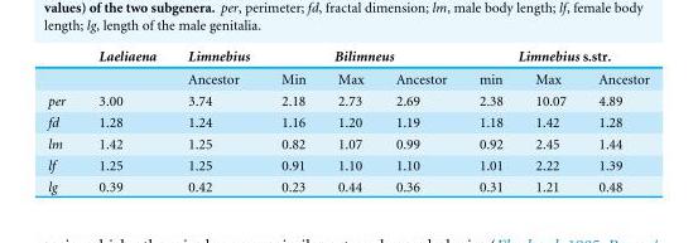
<table><thead><tr><td rowspan="2"></td><td rowspan="2">Laeliaena</td><td rowspan="2">Limnebius Ancestor</td><td colspan="3">Bilimneus</td><td colspan="3">Limnebius s.str.</td></tr><tr><td>Min</td><td>Max</td><td>Ancestor</td><td>min</td><td>Max</td><td>Ancestor</td></tr></thead><tbody><tr><td>per</td><td>3.00</td><td>3.74</td><td>2.18</td><td>2.73</td><td>2.69</td><td>2.38</td><td>10.07</td><td>4.89</td></tr><tr><td>fd</td><td>1.28</td><td>1.24</td><td>1.16</td><td>1.20</td><td>1.19</td><td>1.18</td><td>1.42</td><td>1.28</td></tr><tr><td>lm</td><td>1.42</td><td>1.25</td><td>0.82</td><td>1.07</td><td>0.99</td><td>0.92</td><td>2.45</td><td>1.44</td></tr><tr><td>lf</td><td>1.25</td><td>1.25</td><td>0.91</td><td>1.10</td><td>1.10</td><td>1.01</td><td>2.22</td><td>1.39</td></tr><tr><td>lg</td><td>0.39</td><td>0.42</td><td>0.23</td><td>0.44</td><td>0.36</td><td>0.31</td><td>1.21</td><td>0.48</td></tr></tbody></table>